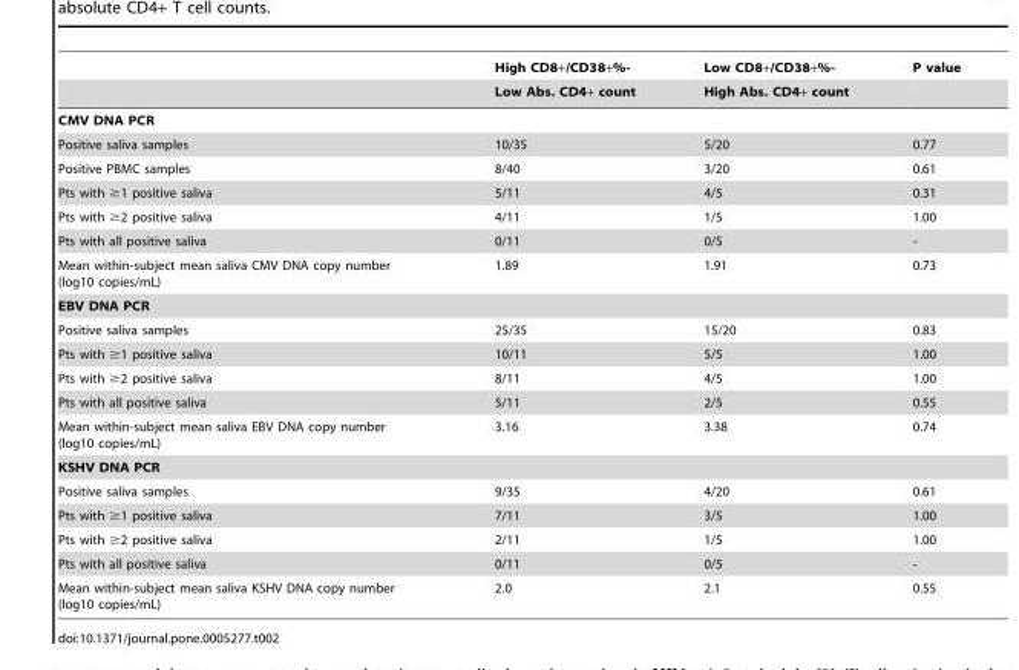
<table><thead><tr><td rowspan="2"></td><td rowspan="2">High CD8+/CD38+%- Low Abs. CD4+ count</td><td rowspan="2">Low CD8+/CD38+%- High Abs. CD4+ count</td><td rowspan="2">P value</td></tr><tr></tr></thead><tbody><tr><td colspan="4">CMV DNA PCR</td></tr><tr><td>Positive saliva samples</td><td>10/35</td><td>5/20</td><td>0.77</td></tr><tr><td>Positive PBMC samples</td><td>8/40</td><td>3/20</td><td>0.61</td></tr><tr><td>Pts with ≥1 positive saliva</td><td>5/11</td><td>4/5</td><td>0.31</td></tr><tr><td>Pts with ≥2 positive saliva</td><td>4/11</td><td>1/5</td><td>1.00</td></tr><tr><td>Pts with all positive saliva</td><td>0/11</td><td>0/5</td><td>-</td></tr><tr><td>Mean within-subject mean saliva CMV DNA copy number (log10 copies/mL)</td><td>1.89</td><td>1.91</td><td>0.73</td></tr><tr><td colspan="4">EBV DNA PCR</td></tr><tr><td>Positive saliva samples</td><td>25/35</td><td>15/20</td><td>0.83</td></tr><tr><td>Pts with ≥1 positive saliva</td><td>10/11</td><td>5/5</td><td>1.00</td></tr><tr><td>Pts with ≥2 positive saliva</td><td>8/11</td><td>4/5</td><td>1.00</td></tr><tr><td>Pts with all positive saliva</td><td>5/11</td><td>2/5</td><td>0.55</td></tr><tr><td>Mean within-subject mean saliva EBV DNA copy number (log10 copies/mL)</td><td>3.16</td><td>3.38</td><td>0.74</td></tr><tr><td colspan="4">KSHV DNA PCR</td></tr><tr><td>Positive saliva samples</td><td>9/35</td><td>4/20</td><td>0.61</td></tr><tr><td>Pts with ≥1 positive saliva</td><td>7/11</td><td>3/5</td><td>1.00</td></tr><tr><td>Pts with ≥2 positive saliva</td><td>2/11</td><td>1/5</td><td>1.00</td></tr><tr><td>Pts with all positive saliva</td><td>0/11</td><td>0/5</td><td>-</td></tr><tr><td>Mean within-subject mean saliva KSHV DNA copy number (log10 copies/mL)</td><td>2.0</td><td>2.1</td><td>0.55</td></tr></tbody></table>